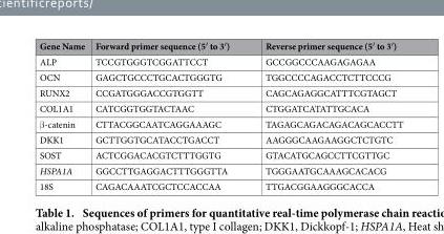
<table><thead><tr><td>Gene Name</td><td>Forward primer sequence (5′ to 3′ )</td><td>Reverse primer sequence (5′ to 3′ )</td></tr></thead><tbody><tr><td>ALP</td><td>TCCGTGGGTCGGATTCCT</td><td>GCCGGCCCAAGAGAGAA</td></tr><tr><td>OCN</td><td>GAGCTGCCCTGCACTGGGTG</td><td>TGGCCCCAGACCTCTTCCCG</td></tr><tr><td>RUNX2</td><td>CCGATGGGACCGTGGTT</td><td>CAGCAGAGGCATTTCGTAGCT</td></tr><tr><td>COL1A1</td><td>CATCGGTGGTACTAAC</td><td>CTGGATCATATTGCACA</td></tr><tr><td>β -catenin</td><td>CTTACGGCAATCAGGAAAGC</td><td>TAGAGCAGACAGACAGCACCTT</td></tr><tr><td>DKK1</td><td>GCTTGGTGCATACCTGACCT</td><td>AAGGGCAAGAAGGCTCTGTC</td></tr><tr><td>SOST</td><td>ACTCGGACACGTCTTTGGTG</td><td>GTACATGCAGCCTTCGTTGC</td></tr><tr><td>HSPA1A</td><td>GGCCTTGAGGACTTTGGGTTA</td><td>TGGGAATGCAAAGCACACG</td></tr><tr><td>18S</td><td>CAGACAAATCGCTCCACCAA</td><td>TTGACGGAAGGGCACCA</td></tr></tbody></table>